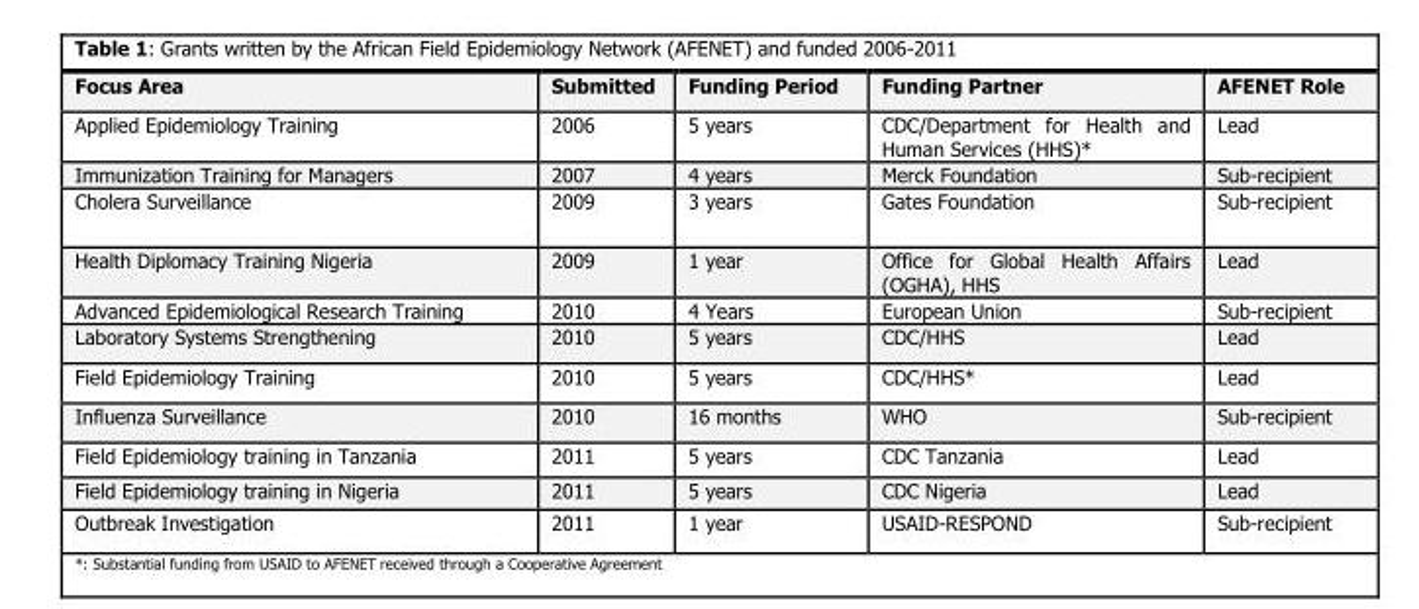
<table><thead><tr><td>Focus Area</td><td>Submitted</td><td>Funding Period</td><td>Funding Partner</td><td>AFENET Role</td></tr></thead><tbody><tr><td>Applied Epidemiology Training</td><td>2006</td><td>5 years</td><td>CDC/Department for Health and Human Services (HHS)*</td><td>Lead</td></tr><tr><td>Immunization Training for Managers</td><td>2007</td><td>4 years</td><td>Merck Foundation</td><td>Sub-recipient</td></tr><tr><td>Cholera Surveillance</td><td>2009</td><td>3 years</td><td>Gates Foundation</td><td>Sub-recipient</td></tr><tr><td>Health Diplomacy Training Nigeria</td><td>2009</td><td>1 year</td><td>Office for Global Health Affairs (OGHA), HHS</td><td>Lead</td></tr><tr><td>Advanced Epidemiological Research Training</td><td>2010</td><td>4 Years</td><td>European Union</td><td>Sub-recipient</td></tr><tr><td>Laboratory Systems Strengthening</td><td>2010</td><td>5 years</td><td>CDC/HHS</td><td>Lead</td></tr><tr><td>Field Epidemiology Training</td><td>2010</td><td>5 years</td><td>CDC/HHS*</td><td>Lead</td></tr><tr><td>Influenza Surveillance</td><td>2010</td><td>16 months</td><td>WHO</td><td>Sub-recipient</td></tr><tr><td>Field Epidemiology training in Tanzania</td><td>2011</td><td>5 years</td><td>CDC Tanzania</td><td>Lead</td></tr><tr><td>Field Epidemiology training in Nigeria</td><td>2011</td><td>5 years</td><td>CDC Nigeria</td><td>Lead</td></tr><tr><td>Outbreak Investigation</td><td>2011</td><td>1 year</td><td>USAID-RESPOND</td><td>Sub-recipient</td></tr></tbody></table>